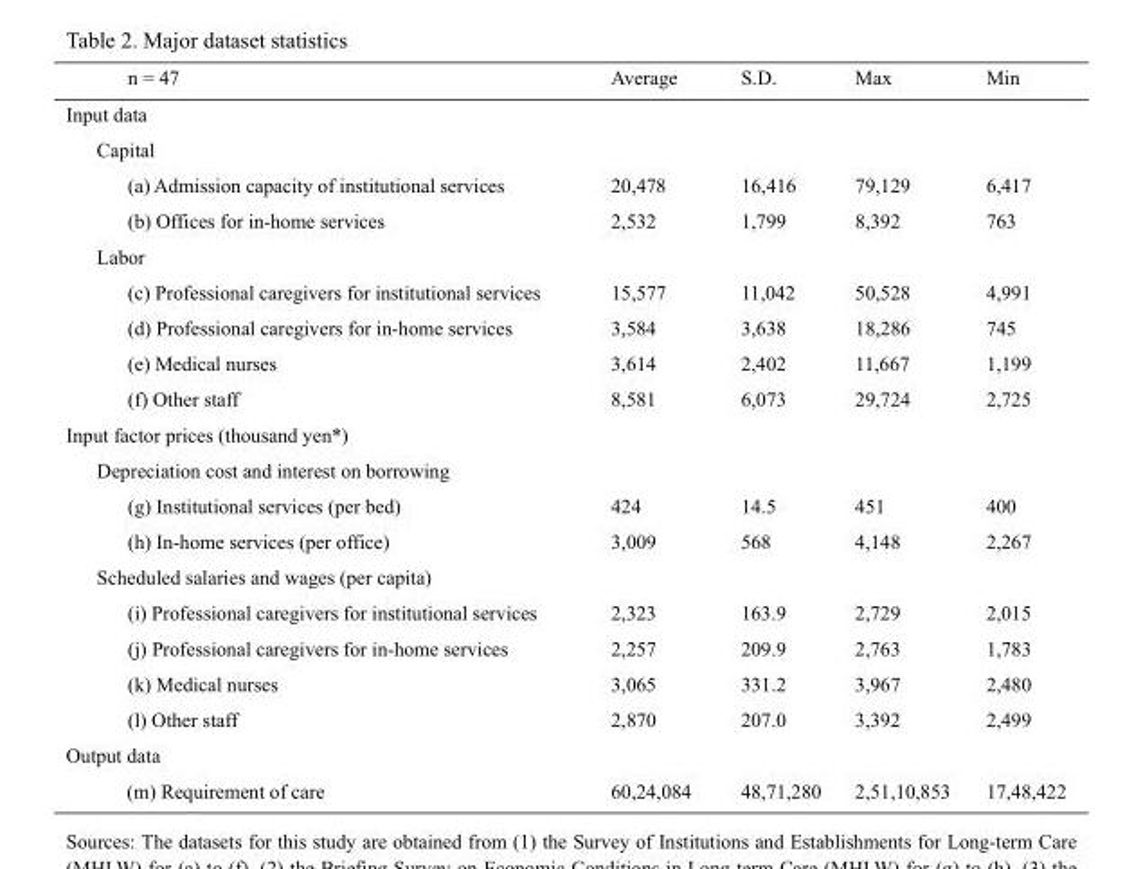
<table><thead><tr><td>n = 47</td><td>Average</td><td>S.D.</td><td>Max</td><td>Min</td></tr></thead><tbody><tr><td colspan="5">Input data</td></tr><tr><td colspan="5">Capital</td></tr><tr><td>(a) Admission capacity of institutional services</td><td>20,478</td><td>16,416</td><td>79,129</td><td>6,417</td></tr><tr><td>(b) Offices for in-home services</td><td>2,532</td><td>1,799</td><td>8,392</td><td>763</td></tr><tr><td colspan="5">Labor</td></tr><tr><td>(c) Professional caregivers for institutional services</td><td>15,577</td><td>11,042</td><td>50,528</td><td>4,991</td></tr><tr><td>(d) Professional caregivers for in-home services</td><td>3,584</td><td>3,638</td><td>18,286</td><td>745</td></tr><tr><td>(e) Medical nurses</td><td>3,614</td><td>2,402</td><td>11,667</td><td>1,199</td></tr><tr><td>(f) Other staff</td><td>8,581</td><td>6,073</td><td>29,724</td><td>2,725</td></tr><tr><td colspan="5">Input factor prices (thousand yen*)</td></tr><tr><td colspan="5">Depreciation cost and interest on borrowing</td></tr><tr><td>(g) Institutional services (per bed)</td><td>424</td><td>14.5</td><td>451</td><td>400</td></tr><tr><td>(h) In-home services (per office)</td><td>3,009</td><td>568</td><td>4,148</td><td>2,267</td></tr><tr><td colspan="5">Scheduled salaries and wages (per capita)</td></tr><tr><td>(i) Professional caregivers for institutional services</td><td>2,323</td><td>163.9</td><td>2,729</td><td>2,015</td></tr><tr><td>(j) Professional caregivers for in-home services</td><td>2,257</td><td>209.9</td><td>2,763</td><td>1,783</td></tr><tr><td>(k) Medical nurses</td><td>3,065</td><td>331.2</td><td>3,967</td><td>2,480</td></tr><tr><td>(l) Other staff</td><td>2,870</td><td>207.0</td><td>3,392</td><td>2,499</td></tr><tr><td colspan="5">Output data</td></tr><tr><td>(m) Requirement of care</td><td>60,24,084</td><td>48,71,280</td><td>2,51,10,853</td><td>17,48,422</td></tr></tbody></table>